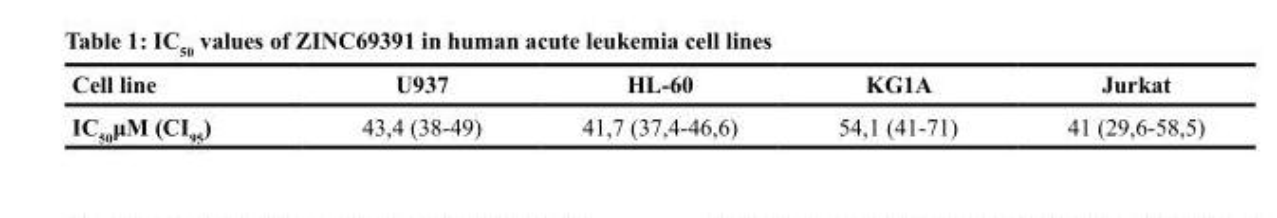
<table><thead><tr><td>Cell line</td><td>U937</td><td>HL-60</td><td>KG1A</td><td>Jurkat</td></tr></thead><tbody><tr><td>IC<sub>50</sub>μM (CI<sub>95</sub>)</td><td>43,4 (38-49)</td><td>41,7 (37,4-46,6)</td><td>54,1 (41-71)</td><td>41 (29,6-58,5)</td></tr></tbody></table>